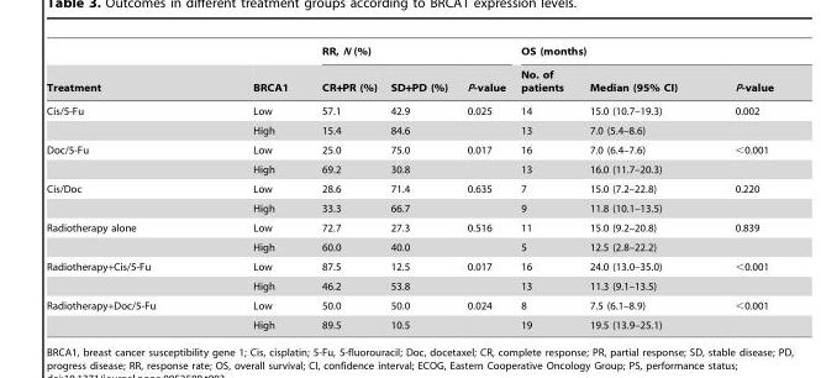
<table><thead><tr><td rowspan="2">Treatment</td><td rowspan="2">BRCA1</td><td colspan="3">RR, N (%)</td><td colspan="3">OS (months)</td></tr><tr><td>CR+PR (%)</td><td>SD+PD (%)</td><td>P-value</td><td>No. of patients</td><td>Median (95% CI)</td><td>P-value</td></tr></thead><tbody><tr><td rowspan="2">Cis/5-Fu</td><td>Low</td><td>57.1</td><td>42.9</td><td>0.025</td><td>14</td><td>15.0 (10.7–19.3)</td><td>0.002</td></tr><tr><td>High</td><td>15.4</td><td>84.6</td><td></td><td>13</td><td>7.0 (5.4–8.6)</td><td></td></tr><tr><td rowspan="2">Doc/5-Fu</td><td>Low</td><td>25.0</td><td>75.0</td><td>0.017</td><td>16</td><td>7.0 (6.4–7.6)</td><td>&lt;0.001</td></tr><tr><td>High</td><td>69.2</td><td>30.8</td><td></td><td>13</td><td>16.0 (11.7–20.3)</td><td></td></tr><tr><td rowspan="2">Cis/Doc</td><td>Low</td><td>28.6</td><td>71.4</td><td>0.635</td><td>7</td><td>15.0 (7.2–22.8)</td><td>0.220</td></tr><tr><td>High</td><td>33.3</td><td>66.7</td><td></td><td>9</td><td>11.8 (10.1–13.5)</td><td></td></tr><tr><td rowspan="2">Radiotherapy alone</td><td>Low</td><td>72.7</td><td>27.3</td><td>0.516</td><td>11</td><td>15.0 (9.2–20.8)</td><td>0.839</td></tr><tr><td>High</td><td>60.0</td><td>40.0</td><td></td><td>5</td><td>12.5 (2.8–22.2)</td><td></td></tr><tr><td rowspan="2">Radiotherapy+Cis/5-Fu</td><td>Low</td><td>87.5</td><td>12.5</td><td>0.017</td><td>16</td><td>24.0 (13.0–35.0)</td><td>&lt;0.001</td></tr><tr><td>High</td><td>46.2</td><td>53.8</td><td></td><td>13</td><td>11.3 (9.1–13.5)</td><td></td></tr><tr><td rowspan="2">Radiotherapy+Doc/5-Fu</td><td>Low</td><td>50.0</td><td>50.0</td><td>0.024</td><td>8</td><td>7.5 (6.1–8.9)</td><td>&lt;0.001</td></tr><tr><td>High</td><td>89.5</td><td>10.5</td><td></td><td>19</td><td>19.5 (13.9–25.1)</td><td></td></tr></tbody></table>